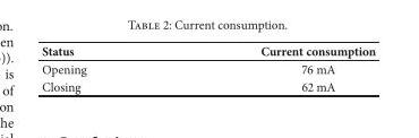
<table><thead><tr><td>Status</td><td>Current consumption</td></tr></thead><tbody><tr><td>Opening</td><td>76 mA</td></tr><tr><td>Closing</td><td>62 mA</td></tr></tbody></table>